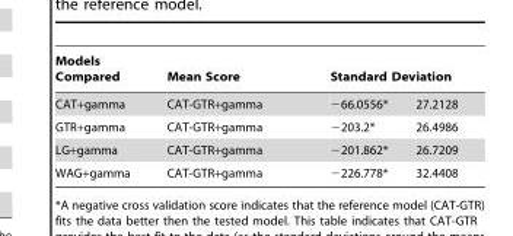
<table><thead><tr><td rowspan="2">Models Compared CAT+gamma</td><td rowspan="2">Mean Score CAT-GTR+gamma</td><td colspan="2">Standard Deviation</td></tr><tr><td>−66.0556*</td><td>27.2128</td></tr></thead><tbody><tr><td>GTR+gamma</td><td>CAT-GTR+gamma</td><td>−203.2*</td><td>26.4986</td></tr><tr><td>LG+gamma</td><td>CAT-GTR+gamma</td><td>−201.862*</td><td>26.7209</td></tr><tr><td>WAG+gamma</td><td>CAT-GTR+gamma</td><td>−226.778*</td><td>32.4408</td></tr></tbody></table>